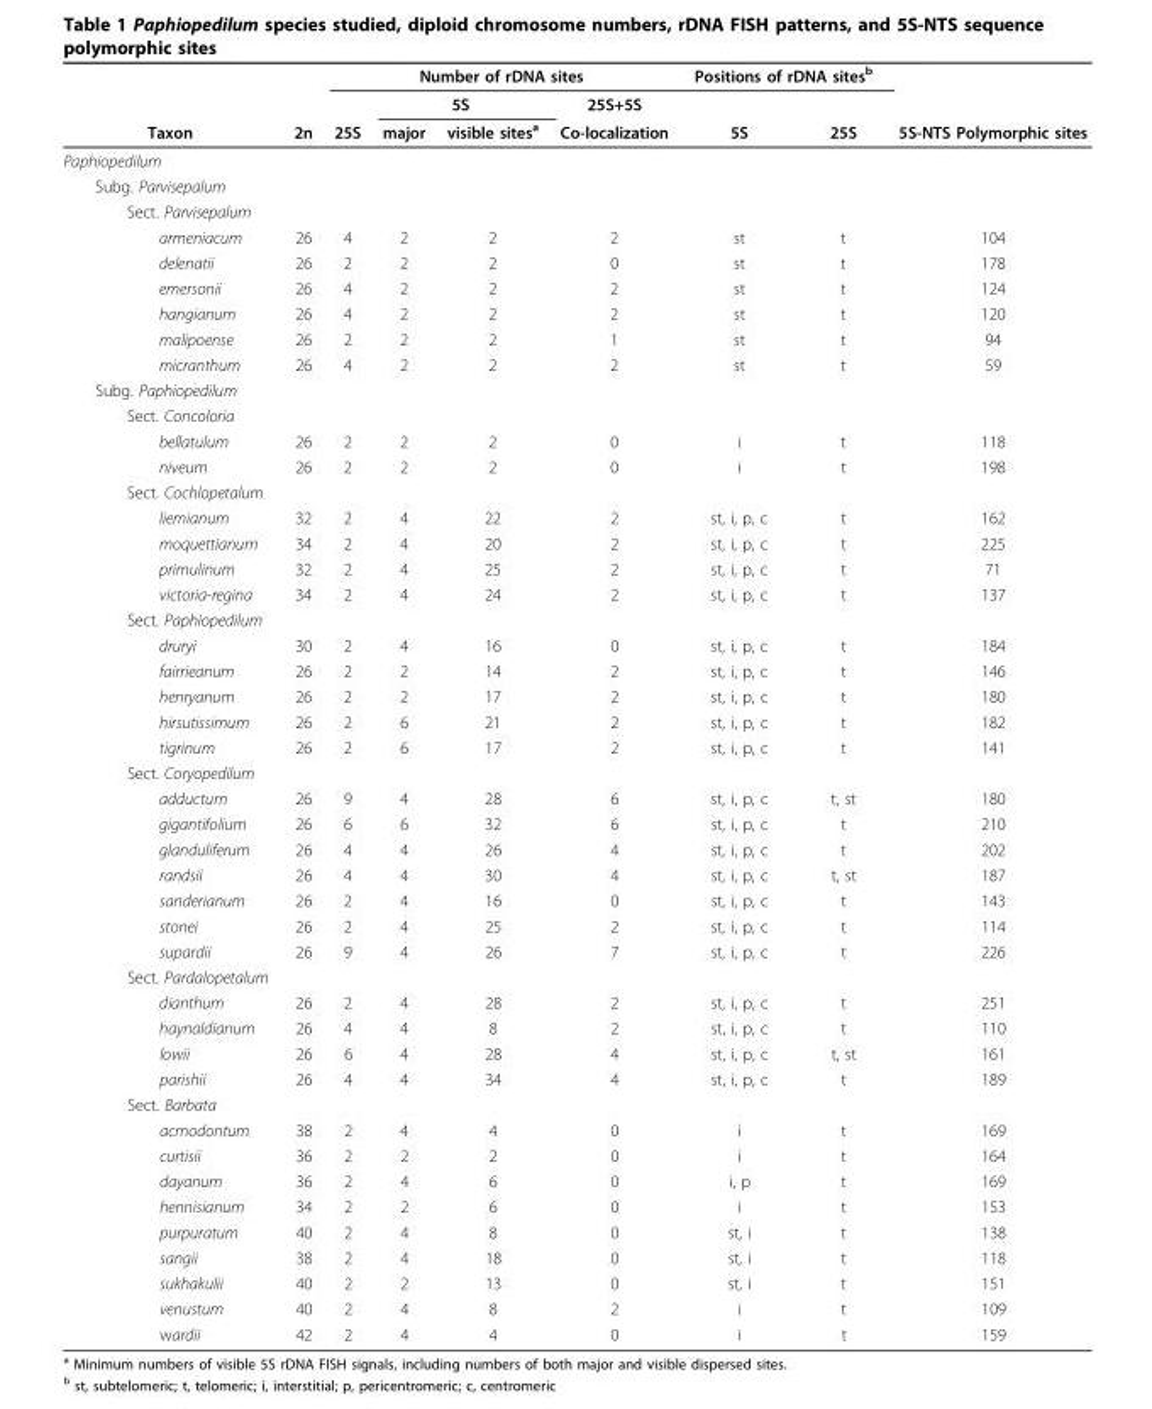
<table><thead><tr><td rowspan="3">Taxon</td><td rowspan="3">2n</td><td colspan="4">Number of rDNA sites</td><td colspan="2">Positions of rDNA sites<sup>b</sup></td><td rowspan="3">5S-NTS Polymorphic sites</td></tr><tr><td rowspan="2">25S</td><td colspan="2">5S</td><td rowspan="2">25S+5S Co-localization</td><td rowspan="2">5S</td><td rowspan="2">25S</td></tr><tr><td>major</td><td>visible sites<sup>a</sup></td></tr></thead><tbody><tr><td colspan="9">Paphiopedilum</td></tr><tr><td colspan="9">Subg. Parvisepalum</td></tr><tr><td colspan="9">Sect. Parvisepalum</td></tr><tr><td>armeniacum</td><td>26</td><td>4</td><td>2</td><td>2</td><td>2</td><td>st</td><td>t</td><td>104</td></tr><tr><td>delenatii</td><td>26</td><td>2</td><td>2</td><td>2</td><td>0</td><td>st</td><td>t</td><td>178</td></tr><tr><td>emersonii</td><td>26</td><td>4</td><td>2</td><td>2</td><td>2</td><td>st</td><td>t</td><td>124</td></tr><tr><td>hangianum</td><td>26</td><td>4</td><td>2</td><td>2</td><td>2</td><td>st</td><td>t</td><td>120</td></tr><tr><td>malipoense</td><td>26</td><td>2</td><td>2</td><td>2</td><td>1</td><td>st</td><td>t</td><td>94</td></tr><tr><td>micranthum</td><td>26</td><td>4</td><td>2</td><td>2</td><td>2</td><td>st</td><td>t</td><td>59</td></tr><tr><td colspan="9">Subg. Paphiopedilum</td></tr><tr><td colspan="9">Sect. Concoloria</td></tr><tr><td>bellatulum</td><td>26</td><td>2</td><td>2</td><td>2</td><td>0</td><td>i</td><td>t</td><td>118</td></tr><tr><td>niveum</td><td>26</td><td>2</td><td>2</td><td>2</td><td>0</td><td>i</td><td>t</td><td>198</td></tr><tr><td colspan="9">Sect. Cochlopetalum</td></tr><tr><td>liemianum</td><td>32</td><td>2</td><td>4</td><td>22</td><td>2</td><td>st, i, p, c</td><td>t</td><td>162</td></tr><tr><td>moquettianum</td><td>34</td><td>2</td><td>4</td><td>20</td><td>2</td><td>st, i, p, c</td><td>t</td><td>225</td></tr><tr><td>primulinum</td><td>32</td><td>2</td><td>4</td><td>25</td><td>2</td><td>st, i, p, c</td><td>t</td><td>71</td></tr><tr><td>victoria-regina</td><td>34</td><td>2</td><td>4</td><td>24</td><td>2</td><td>st, i, p, c</td><td>t</td><td>137</td></tr><tr><td colspan="9">Sect. Paphiopedilum</td></tr><tr><td>druryi</td><td>30</td><td>2</td><td>4</td><td>16</td><td>0</td><td>st, i, p, c</td><td>t</td><td>184</td></tr><tr><td>fairrieanum</td><td>26</td><td>2</td><td>2</td><td>14</td><td>2</td><td>st, i, p, c</td><td>t</td><td>146</td></tr><tr><td>henryanum</td><td>26</td><td>2</td><td>2</td><td>17</td><td>2</td><td>st, i, p, c</td><td>t</td><td>180</td></tr><tr><td>hirsutissimum</td><td>26</td><td>2</td><td>6</td><td>21</td><td>2</td><td>st, i, p, c</td><td>t</td><td>182</td></tr><tr><td>tigrinum</td><td>26</td><td>2</td><td>6</td><td>17</td><td>2</td><td>st, i, p, c</td><td>t</td><td>141</td></tr><tr><td colspan="9">Sect. Coryopedilum</td></tr><tr><td>adductum</td><td>26</td><td>9</td><td>4</td><td>28</td><td>6</td><td>st, i, p, c</td><td>t, st</td><td>180</td></tr><tr><td>gigantifolium</td><td>26</td><td>6</td><td>6</td><td>32</td><td>6</td><td>st, i, p, c</td><td>t</td><td>210</td></tr><tr><td>glanduliferum</td><td>26</td><td>4</td><td>4</td><td>26</td><td>4</td><td>st, i, p, c</td><td>t</td><td>202</td></tr><tr><td>randsii</td><td>26</td><td>4</td><td>4</td><td>30</td><td>4</td><td>st, i, p, c</td><td>t, st</td><td>187</td></tr><tr><td>sanderianum</td><td>26</td><td>2</td><td>4</td><td>16</td><td>0</td><td>st, i, p, c</td><td>t</td><td>143</td></tr><tr><td>stonei</td><td>26</td><td>2</td><td>4</td><td>25</td><td>2</td><td>st, i, p, c</td><td>t</td><td>114</td></tr><tr><td>supardii</td><td>26</td><td>9</td><td>4</td><td>26</td><td>7</td><td>st, i, p, c</td><td>t</td><td>226</td></tr><tr><td colspan="9">Sect. Pardalopetalum</td></tr><tr><td>dianthum</td><td>26</td><td>2</td><td>4</td><td>28</td><td>2</td><td>st, i, p, c</td><td>t</td><td>251</td></tr><tr><td>haynaldianum</td><td>26</td><td>4</td><td>4</td><td>8</td><td>2</td><td>st, i, p, c</td><td>t</td><td>110</td></tr><tr><td>lowii</td><td>26</td><td>6</td><td>4</td><td>28</td><td>4</td><td>st, i, p, c</td><td>t, st</td><td>161</td></tr><tr><td>parishii</td><td>26</td><td>4</td><td>4</td><td>34</td><td>4</td><td>st, i, p, c</td><td>t</td><td>189</td></tr><tr><td colspan="9">Sect. Barbata</td></tr><tr><td>acmodontum</td><td>38</td><td>2</td><td>4</td><td>4</td><td>0</td><td>i</td><td>t</td><td>169</td></tr><tr><td>curtisii</td><td>36</td><td>2</td><td>2</td><td>2</td><td>0</td><td>i</td><td>t</td><td>164</td></tr><tr><td>dayanum</td><td>36</td><td>2</td><td>4</td><td>6</td><td>0</td><td>i, p</td><td>t</td><td>169</td></tr><tr><td>hennisianum</td><td>34</td><td>2</td><td>2</td><td>6</td><td>0</td><td>i</td><td>t</td><td>153</td></tr><tr><td>purpuratum</td><td>40</td><td>2</td><td>4</td><td>8</td><td>0</td><td>st, i</td><td>t</td><td>138</td></tr><tr><td>sangii</td><td>38</td><td>2</td><td>4</td><td>18</td><td>0</td><td>st, i</td><td>t</td><td>118</td></tr><tr><td>sukhakulii</td><td>40</td><td>2</td><td>2</td><td>13</td><td>0</td><td>st, i</td><td>t</td><td>151</td></tr><tr><td>venustum</td><td>40</td><td>2</td><td>4</td><td>8</td><td>2</td><td>i</td><td>t</td><td>109</td></tr><tr><td>wardii</td><td>42</td><td>2</td><td>4</td><td>4</td><td>0</td><td>i</td><td>t</td><td>159</td></tr></tbody></table>